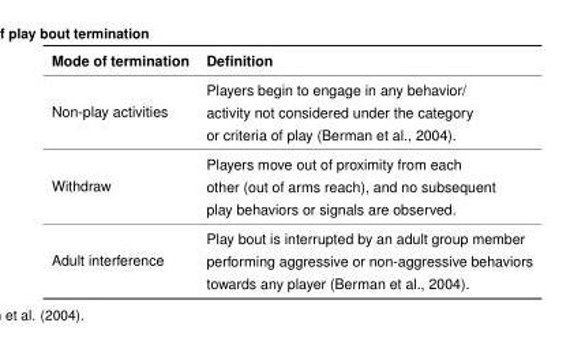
<table><thead><tr><td>Mode of termination</td><td>Definition</td></tr></thead><tbody><tr><td>Non-play activities</td><td>Players begin to engage in any behavior/ activity not considered under the category or criteria of play (Berman et al., 2004).</td></tr><tr><td>Withdraw</td><td>Players move out of proximity from each other (out of arms reach), and no subsequent play behaviors or signals are observed.</td></tr><tr><td>Adult interference</td><td>Play bout is interrupted by an adult group member performing aggressive or non-aggressive behaviors towards any player (Berman et al., 2004).</td></tr></tbody></table>